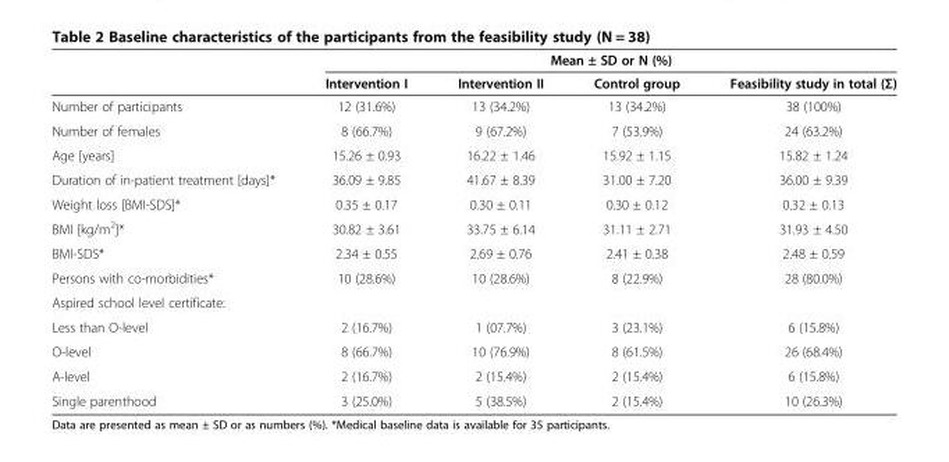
<table><thead><tr><td rowspan="2"></td><td colspan="4">Mean ± SD or N (%)</td></tr><tr><td>Intervention I</td><td>Intervention II</td><td>Control group</td><td>Feasibility study in total (Σ)</td></tr></thead><tbody><tr><td>Number of participants</td><td>12 (31.6%)</td><td>13 (34.2%)</td><td>13 (34.2%)</td><td>38 (100%)</td></tr><tr><td>Number of females</td><td>8 (66.7%)</td><td>9 (67.2%)</td><td>7 (53.9%)</td><td>24 (63.2%)</td></tr><tr><td>Age [years]</td><td>15.26 ± 0.93</td><td>16.22 ± 1.46</td><td>15.92 ± 1.15</td><td>15.82 ± 1.24</td></tr><tr><td>Duration of in-patient treatment [days]*</td><td>36.09 ± 9.85</td><td>41.67 ± 8.39</td><td>31.00 ± 7.20</td><td>36.00 ± 9.39</td></tr><tr><td>Weight loss [BMI-SDS]*</td><td>0.35 ± 0.17</td><td>0.30 ± 0.11</td><td>0.30 ± 0.12</td><td>0.32 ± 0.13</td></tr><tr><td>BMI [kg/m<sup>2</sup>]*</td><td>30.82 ± 3.61</td><td>33.75 ± 6.14</td><td>31.11 ± 2.71</td><td>31.93 ± 4.50</td></tr><tr><td>BMI-SDS*</td><td>2.34 ± 0.55</td><td>2.69 ± 0.76</td><td>2.41 ± 0.38</td><td>2.48 ± 0.59</td></tr><tr><td>Persons with co-morbidities*</td><td>10 (28.6%)</td><td>10 (28.6%)</td><td>8 (22.9%)</td><td>28 (80.0%)</td></tr><tr><td colspan="5">Aspired school level certificate:</td></tr><tr><td>Less than O-level</td><td>2 (16.7%)</td><td>1 (07.7%)</td><td>3 (23.1%)</td><td>6 (15.8%)</td></tr><tr><td>O-level</td><td>8 (66.7%)</td><td>10 (76.9%)</td><td>8 (61.5%)</td><td>26 (68.4%)</td></tr><tr><td>A-level</td><td>2 (16.7%)</td><td>2 (15.4%)</td><td>2 (15.4%)</td><td>6 (15.8%)</td></tr><tr><td>Single parenthood</td><td>3 (25.0%)</td><td>5 (38.5%)</td><td>2 (15.4%)</td><td>10 (26.3%)</td></tr></tbody></table>